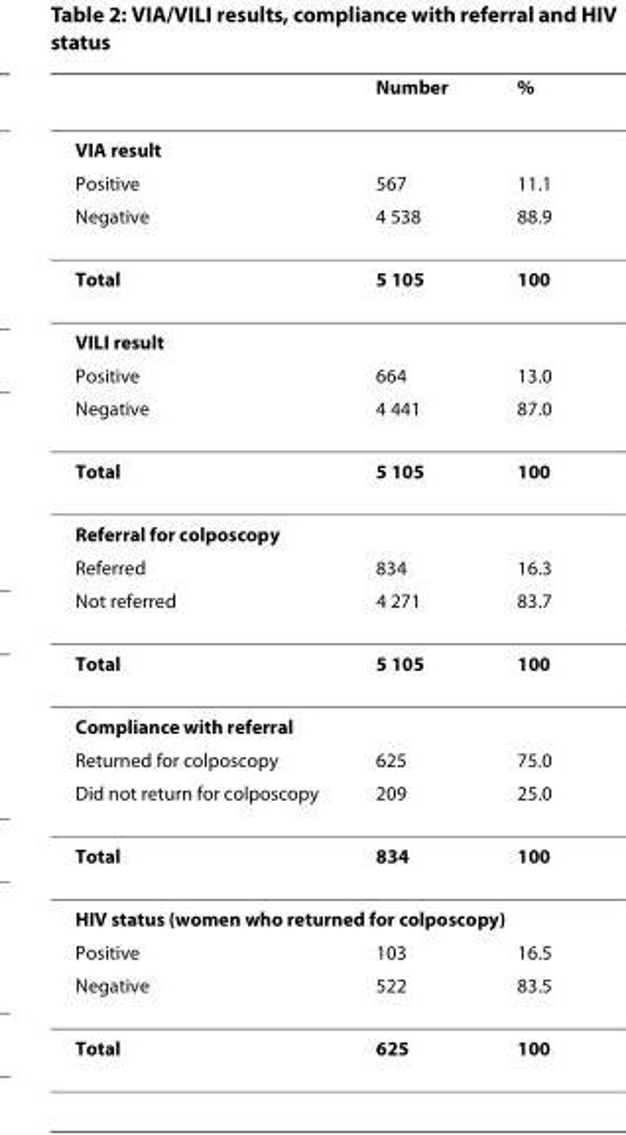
<table><thead><tr><td></td><td>Number</td><td>%</td></tr></thead><tbody><tr><td colspan="3">VIA result</td></tr><tr><td>Positive</td><td>567</td><td>11.1</td></tr><tr><td>Negative</td><td>4 538</td><td>88.9</td></tr><tr><td>Total</td><td>5 105</td><td>100</td></tr><tr><td colspan="3">VILI result</td></tr><tr><td>Positive</td><td>664</td><td>13.0</td></tr><tr><td>Negative</td><td>4 441</td><td>87.0</td></tr><tr><td>Total</td><td>5 105</td><td>100</td></tr><tr><td colspan="3">Referral for colposcopy</td></tr><tr><td>Referred</td><td>834</td><td>16.3</td></tr><tr><td>Not referred</td><td>4 271</td><td>83.7</td></tr><tr><td>Total</td><td>5 105</td><td>100</td></tr><tr><td colspan="3">Compliance with referral</td></tr><tr><td>Returned for colposcopy</td><td>625</td><td>75.0</td></tr><tr><td>Did not return for colposcopy</td><td>209</td><td>25.0</td></tr><tr><td>Total</td><td>834</td><td>100</td></tr><tr><td colspan="3">HIV status (women who returned for colposcopy)</td></tr><tr><td>Positive</td><td>103</td><td>16.5</td></tr><tr><td>Negative</td><td>522</td><td>83.5</td></tr><tr><td>Total</td><td>625</td><td>100</td></tr></tbody></table>